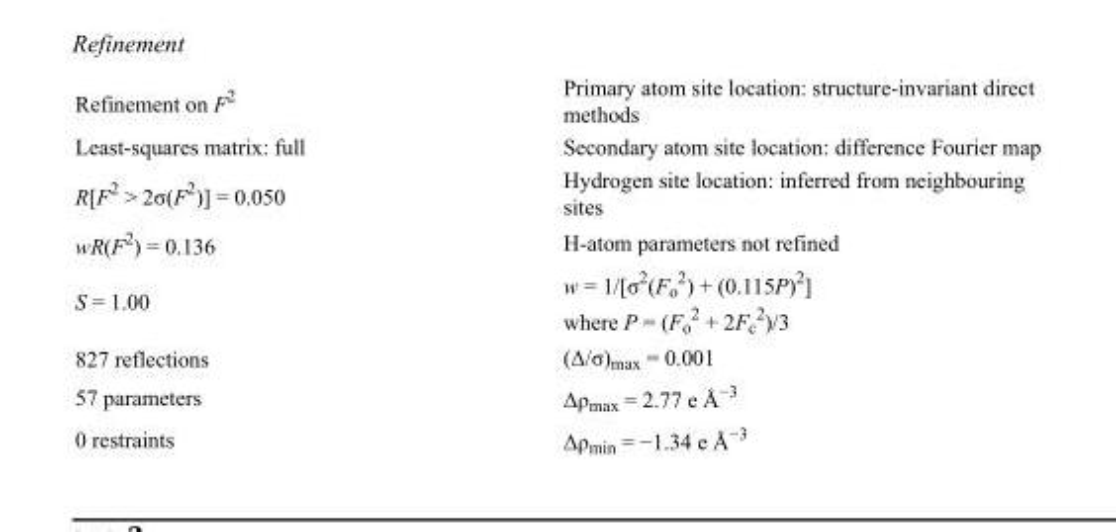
<table><tbody><tr><td>Refinement on F<sup>2</sup></td><td>Primary atom site location: structure-invariant direct methods</td></tr><tr><td>Least-squares matrix: full</td><td>Secondary atom site location: difference Fourier map</td></tr><tr><td>R[F<sup>2</sup> &gt; 2σ(F<sup>2</sup>)] = 0.050</td><td>Hydrogen site location: inferred from neighbouring sites</td></tr><tr><td>wR(F<sup>2</sup>) = 0.136</td><td>H-atom parameters not refined</td></tr><tr><td>S = 1.00</td><td>w = 1/[σ<sup>2</sup>(F<sub>o</sub> <sup>2</sup>) + (0.115P)<sup>2</sup>] where P = (F<sub>o</sub> <sup>2</sup> + 2F<sub>c</sub> <sup>2</sup>)/3</td></tr><tr><td>827 reflections</td><td>(Δ/σ)<sub>max</sub> = 0.001</td></tr><tr><td>57 parameters</td><td>Δρ<sub>max</sub> = 2.77 e Å<sup>−3</sup></td></tr><tr><td>0 restraints</td><td>Δρ<sub>min</sub> = −1.34 e Å<sup>−3</sup></td></tr></tbody></table>